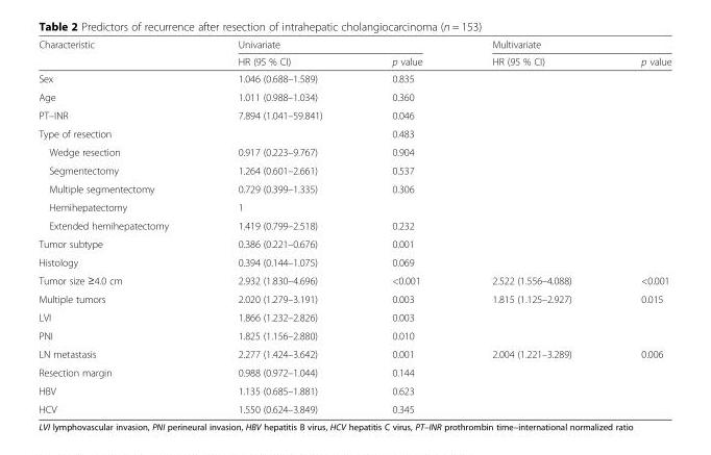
<table><thead><tr><td rowspan="2">Characteristic</td><td colspan="2">Univariate</td><td colspan="2">Multivariate</td></tr><tr><td>HR (95 % CI)</td><td>p value</td><td>HR (95 % CI)</td><td>p value</td></tr></thead><tbody><tr><td>Sex</td><td>1.046 (0.688–1.589)</td><td>0.835</td><td></td><td></td></tr><tr><td>Age</td><td>1.011 (0.988–1.034)</td><td>0.360</td><td></td><td></td></tr><tr><td>PT–INR</td><td>7.894 (1.041–59.841)</td><td>0.046</td><td></td><td></td></tr><tr><td>Type of resection</td><td></td><td>0.483</td><td></td><td></td></tr><tr><td>Wedge resection</td><td>0.917 (0.223–9.767)</td><td>0.904</td><td></td><td></td></tr><tr><td>Segmentectomy</td><td>1.264 (0.601–2.661)</td><td>0.537</td><td></td><td></td></tr><tr><td>Multiple segmentectomy</td><td>0.729 (0.399–1.335)</td><td>0.306</td><td></td><td></td></tr><tr><td>Hemihepatectomy</td><td>1</td><td></td><td></td><td></td></tr><tr><td>Extended hemihepatectomy</td><td>1.419 (0.799–2.518)</td><td>0.232</td><td></td><td></td></tr><tr><td>Tumor subtype</td><td>0.386 (0.221–0.676)</td><td>0.001</td><td></td><td></td></tr><tr><td>Histology</td><td>0.394 (0.144–1.075)</td><td>0.069</td><td></td><td></td></tr><tr><td>Tumor size ≥4.0 cm</td><td>2.932 (1.830–4.696)</td><td>&lt;0.001</td><td>2.522 (1.556–4.088)</td><td>&lt;0.001</td></tr><tr><td>Multiple tumors</td><td>2.020 (1.279–3.191)</td><td>0.003</td><td>1.815 (1.125–2.927)</td><td>0.015</td></tr><tr><td>LVI</td><td>1.866 (1.232–2.826)</td><td>0.003</td><td></td><td></td></tr><tr><td>PNI</td><td>1.825 (1.156–2.880)</td><td>0.010</td><td></td><td></td></tr><tr><td>LN metastasis</td><td>2.277 (1.424–3.642)</td><td>0.001</td><td>2.004 (1.221–3.289)</td><td>0.006</td></tr><tr><td>Resection margin</td><td>0.988 (0.972–1.044)</td><td>0.144</td><td></td><td></td></tr><tr><td>HBV</td><td>1.135 (0.685–1.881)</td><td>0.623</td><td></td><td></td></tr><tr><td>HCV</td><td>1.550 (0.624–3.849)</td><td>0.345</td><td></td><td></td></tr></tbody></table>